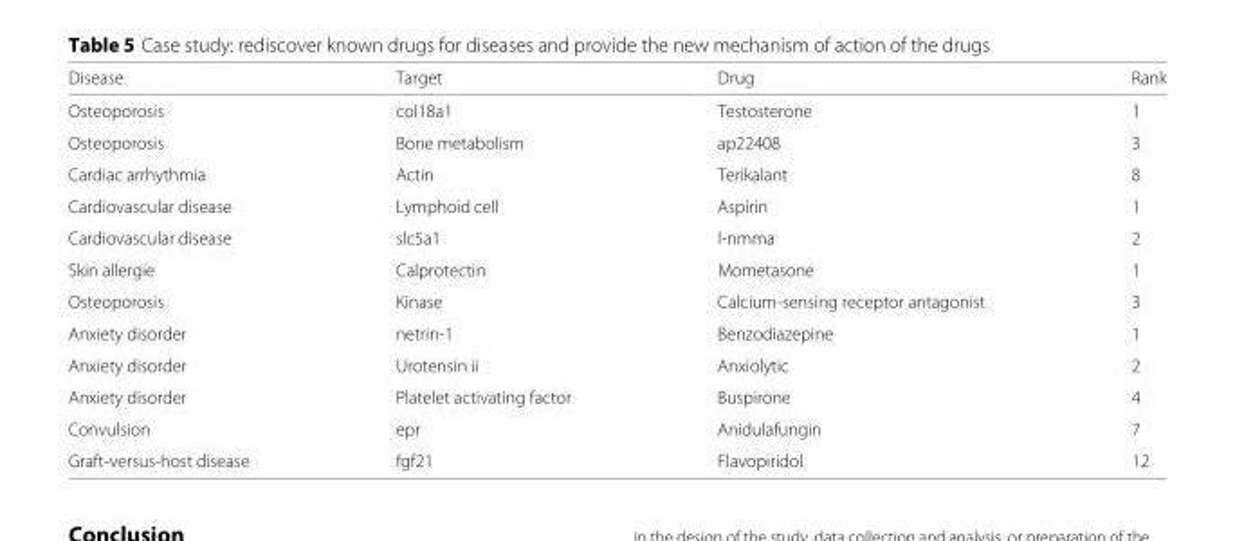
<table><thead><tr><td>Disease</td><td>Target</td><td>Drug</td><td>Rank</td></tr></thead><tbody><tr><td>Osteoporosis</td><td>col18a1</td><td>Testosterone</td><td>1</td></tr><tr><td>Osteoporosis</td><td>Bone metabolism</td><td>ap22408</td><td>3</td></tr><tr><td>Cardiac arrhythmia</td><td>Actin</td><td>Terikalant</td><td>8</td></tr><tr><td>Cardiovascular disease</td><td>Lymphoid cell</td><td>Aspirin</td><td>1</td></tr><tr><td>Cardiovascular disease</td><td>slc5a1</td><td>l-nmma</td><td>2</td></tr><tr><td>Skin allergie</td><td>Calprotectin</td><td>Mometasone</td><td>1</td></tr><tr><td>Osteoporosis</td><td>Kinase</td><td>Calcium-sensing receptor antagonist</td><td>3</td></tr><tr><td>Anxiety disorder</td><td>netrin-1</td><td>Benzodiazepine</td><td>1</td></tr><tr><td>Anxiety disorder</td><td>Urotensin ii</td><td>Anxiolytic</td><td>2</td></tr><tr><td>Anxiety disorder</td><td>Platelet activating factor</td><td>Buspirone</td><td>4</td></tr><tr><td>Convulsion</td><td>epr</td><td>Anidulafungin</td><td>7</td></tr><tr><td>Graft-versus-host disease</td><td>fgf21</td><td>Flavopiridol</td><td>12</td></tr></tbody></table>